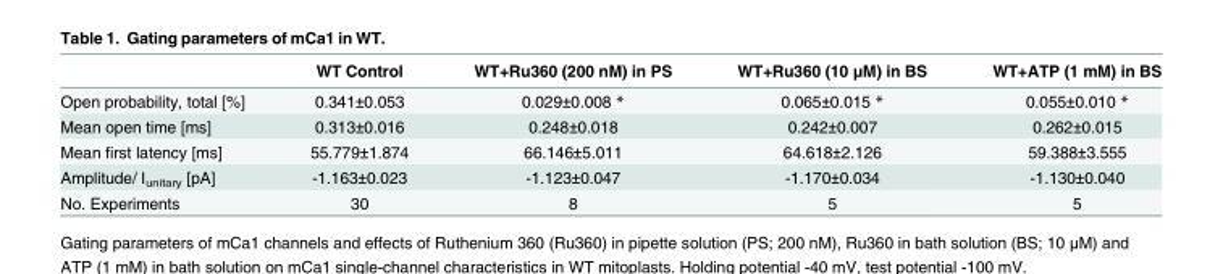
<table><thead><tr><td></td><td>WT Control</td><td>WT+Ru360 (200 nM) in PS</td><td>WT+Ru360 (10 μM) in BS</td><td>WT+ATP (1 mM) in BS</td></tr></thead><tbody><tr><td>Open probability, total [%]</td><td>0.341±0.053</td><td>0.029±0.008 *</td><td>0.065±0.015 *</td><td>0.055±0.010 *</td></tr><tr><td>Mean open time [ms]</td><td>0.313±0.016</td><td>0.248±0.018</td><td>0.242±0.007</td><td>0.262±0.015</td></tr><tr><td>Mean first latency [ms]</td><td>55.779±1.874</td><td>66.146±5.011</td><td>64.618±2.126</td><td>59.388±3.555</td></tr><tr><td>Amplitude/ I<sub>unitary</sub> [pA]</td><td>-1.163±0.023</td><td>-1.123±0.047</td><td>-1.170±0.034</td><td>-1.130±0.040</td></tr><tr><td>No. Experiments</td><td>30</td><td>8</td><td>5</td><td>5</td></tr></tbody></table>